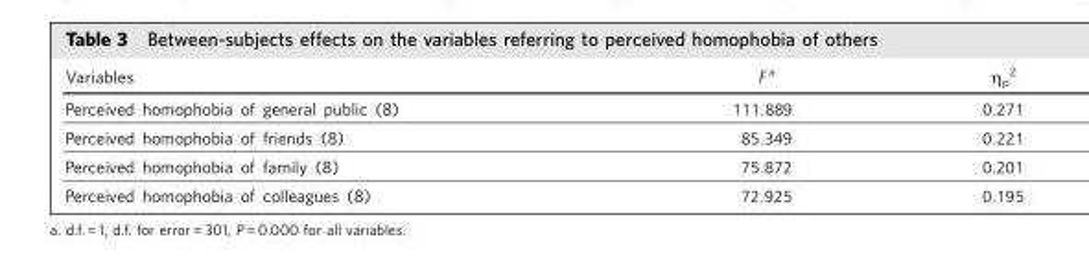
<table><thead><tr><td>Variables</td><td>F <sup>a</sup></td><td>η<sub>p</sub> <sup>2</sup></td></tr></thead><tbody><tr><td>Perceived homophobia of general public (8)</td><td>111.889</td><td>0.271</td></tr><tr><td>Perceived homophobia of friends (8)</td><td>85.349</td><td>0.221</td></tr><tr><td>Perceived homophobia of family (8)</td><td>75.872</td><td>0.201</td></tr><tr><td>Perceived homophobia of colleagues (8)</td><td>72.925</td><td>0.195</td></tr></tbody></table>